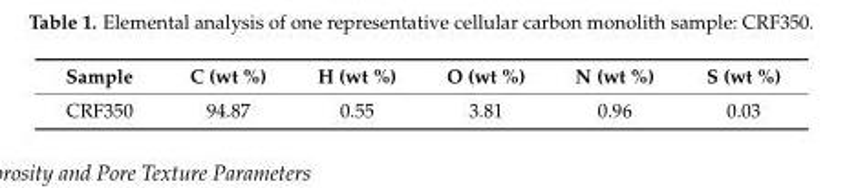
<table><thead><tr><td>Sample</td><td>C (wt %)</td><td>H (wt %)</td><td>O (wt %)</td><td>N (wt %)</td><td>S (wt %)</td></tr></thead><tbody><tr><td>CRF350</td><td>94.87</td><td>0.55</td><td>3.81</td><td>0.96</td><td>0.03</td></tr></tbody></table>